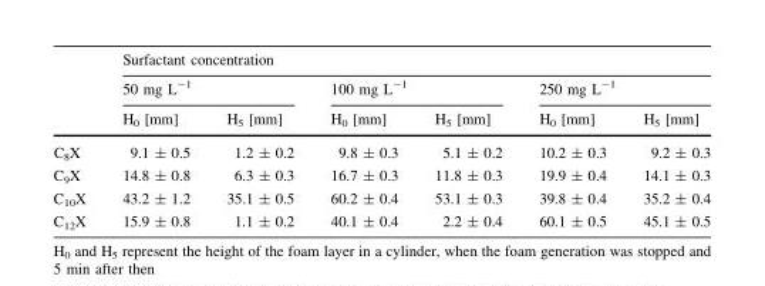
<table><thead><tr><td rowspan="3"></td><td colspan="6">Surfactant concentration</td></tr><tr><td colspan="2">50 mg L<sup>-1</sup></td><td colspan="2">100 mg L<sup>-1</sup></td><td colspan="2">250 mg L<sup>-1</sup></td></tr><tr><td>H<sub>0</sub> [mm]</td><td>H<sub>5</sub> [mm]</td><td>H<sub>0</sub> [mm]</td><td>H<sub>5</sub> [mm]</td><td>H<sub>0</sub> [mm]</td><td>H<sub>5</sub> [mm]</td></tr></thead><tbody><tr><td>C<sub>8</sub>X</td><td>9.1 ± 0.5</td><td>1.2 ± 0.2</td><td>9.8 ± 0.3</td><td>5.1 ± 0.2</td><td>10.2 ± 0.3</td><td>9.2 ± 0.3</td></tr><tr><td>C<sub>9</sub>X</td><td>14.8 ± 0.8</td><td>6.3 ± 0.3</td><td>16.7 ± 0.3</td><td>11.8 ± 0.3</td><td>19.9 ± 0.4</td><td>14.1 ± 0.3</td></tr><tr><td>C<sub>10</sub>X</td><td>43.2 ± 1.2</td><td>35.1 ± 0.5</td><td>60.2 ± 0.4</td><td>53.1 ± 0.3</td><td>39.8 ± 0.4</td><td>35.2 ± 0.4</td></tr><tr><td>C<sub>12</sub>X</td><td>15.9 ± 0.8</td><td>1.1 ± 0.2</td><td>40.1 ± 0.4</td><td>2.2 ± 0.4</td><td>60.1 ± 0.5</td><td>45.1 ± 0.5</td></tr></tbody></table>